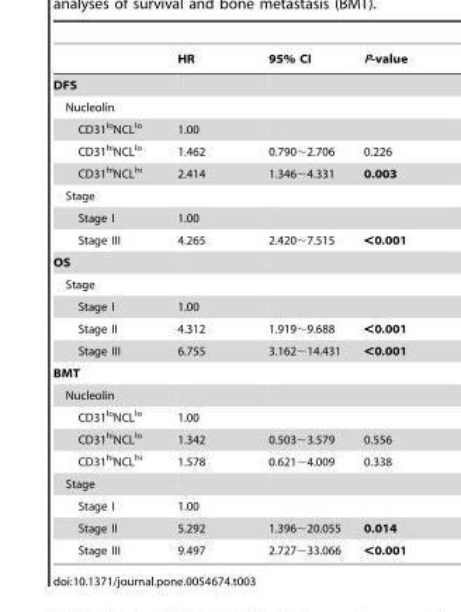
<table><thead><tr><td></td><td>HR</td><td>95% CI</td><td>P-value</td></tr></thead><tbody><tr><td colspan="4">DFS</td></tr><tr><td colspan="4">Nucleolin</td></tr><tr><td>CD31<sup>lo</sup>NCL<sup>lo</sup></td><td>1.00</td><td></td><td></td></tr><tr><td>CD31<sup>hi</sup>NCL<sup>lo</sup></td><td>1.462</td><td>0.790∼2.706</td><td>0.226</td></tr><tr><td>CD31<sup>hi</sup>NCL<sup>hi</sup></td><td>2.414</td><td>1.346∼4.331</td><td>0.003</td></tr><tr><td colspan="4">Stage</td></tr><tr><td>Stage I</td><td>1.00</td><td></td><td></td></tr><tr><td>Stage III</td><td>4.265</td><td>2.420∼7.515</td><td>&lt;0.001</td></tr><tr><td colspan="4">OS</td></tr><tr><td colspan="4">Stage</td></tr><tr><td>Stage I</td><td>1.00</td><td></td><td></td></tr><tr><td>Stage II</td><td>4.312</td><td>1.919∼9.688</td><td>&lt;0.001</td></tr><tr><td>Stage III</td><td>6.755</td><td>3.162∼14.431</td><td>&lt;0.001</td></tr><tr><td colspan="4">BMT</td></tr><tr><td colspan="4">Nucleolin</td></tr><tr><td>CD31<sup>lo</sup>NCL<sup>lo</sup></td><td>1.00</td><td></td><td></td></tr><tr><td>CD31<sup>hi</sup>NCL<sup>lo</sup></td><td>1.342</td><td>0.503∼3.579</td><td>0.556</td></tr><tr><td>CD31<sup>hi</sup>NCL<sup>hi</sup></td><td>1.578</td><td>0.621∼4.009</td><td>0.338</td></tr><tr><td colspan="4">Stage</td></tr><tr><td>Stage I</td><td>1.00</td><td></td><td></td></tr><tr><td>Stage II</td><td>5.292</td><td>1.396∼20.055</td><td>0.014</td></tr><tr><td>Stage III</td><td>9.497</td><td>2.727∼33.066</td><td>&lt;0.001</td></tr></tbody></table>